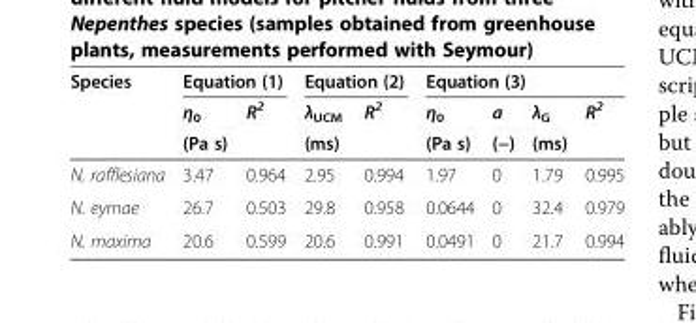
<table><thead><tr><td rowspan="3">Species</td><td colspan="2">Equation (1)</td><td colspan="2">Equation (2)</td><td colspan="4">Equation (3)</td></tr><tr><td rowspan="2">η<sub>0</sub> (Pa s)</td><td rowspan="2">R<sup>2</sup></td><td rowspan="2">λ<sub>UCM</sub> (ms)</td><td rowspan="2">R<sup>2</sup></td><td rowspan="2">η<sub>0</sub> (Pa s)</td><td rowspan="2">a (−)</td><td rowspan="2">λ<sub>G</sub> (ms)</td><td rowspan="2">R<sup>2</sup></td></tr><tr></tr></thead><tbody><tr><td>N. rafflesiana</td><td>3.47</td><td>0.964</td><td>2.95</td><td>0.994</td><td>1.97</td><td>0</td><td>1.79</td><td>0.995</td></tr><tr><td>N. eymae</td><td>26.7</td><td>0.503</td><td>29.8</td><td>0.958</td><td>0.0644</td><td>0</td><td>32.4</td><td>0.979</td></tr><tr><td>N. maxima</td><td>20.6</td><td>0.599</td><td>20.6</td><td>0.991</td><td>0.0491</td><td>0</td><td>21.7</td><td>0.994</td></tr></tbody></table>